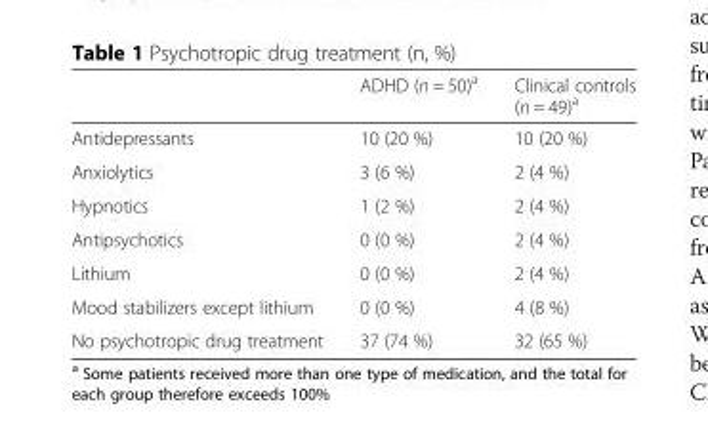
<table><thead><tr><td></td><td>ADHD (n = 50)<sup>a</sup></td><td>Clinical controls (n = 49)<sup>a</sup></td></tr></thead><tbody><tr><td>Antidepressants</td><td>10 (20 %)</td><td>10 (20 %)</td></tr><tr><td>Anxiolytics</td><td>3 (6 %)</td><td>2 (4 %)</td></tr><tr><td>Hypnotics</td><td>1 (2 %)</td><td>2 (4 %)</td></tr><tr><td>Antipsychotics</td><td>0 (0 %)</td><td>2 (4 %)</td></tr><tr><td>Lithium</td><td>0 (0 %)</td><td>2 (4 %)</td></tr><tr><td>Mood stabilizers except lithium</td><td>0 (0 %)</td><td>4 (8 %)</td></tr><tr><td>No psychotropic drug treatment</td><td>37 (74 %)</td><td>32 (65 %)</td></tr></tbody></table>